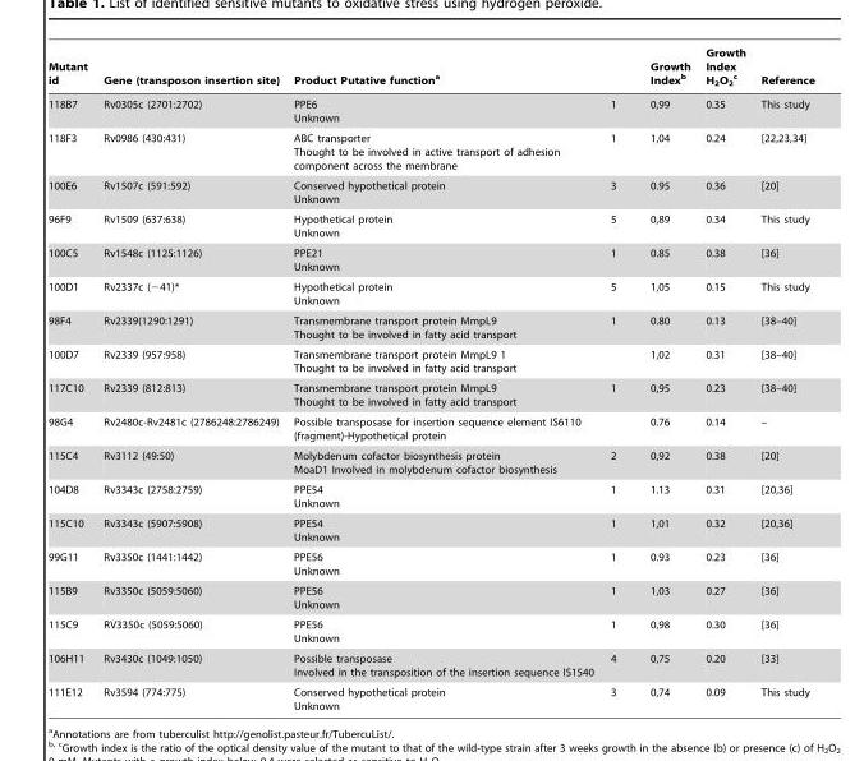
<table><thead><tr><td rowspan="2">Mutant id 118B7</td><td rowspan="2">Gene (transposon insertion site) Rv0305c (2701:2702)</td><td colspan="2">Product Putative function<sup>a</sup></td><td rowspan="2">Growth Index<sup>b</sup> 0,99</td><td rowspan="2">Growth Index H<sub>2</sub>O<sub>2</sub> <sup>c</sup> 0.35</td><td rowspan="2">Reference This study</td></tr><tr><td>PPE6 Unknown</td><td>1</td></tr></thead><tbody><tr><td>118F3</td><td>Rv0986 (430:431)</td><td>ABC transporter Thought to be involved in active transport of adhesion component across the membrane</td><td>1</td><td>1,04</td><td>0.24</td><td>[22,23,34]</td></tr><tr><td>100E6</td><td>Rv1507c (591:592)</td><td>Conserved hypothetical protein Unknown</td><td>3</td><td>0.95</td><td>0.36</td><td>[20]</td></tr><tr><td>96F9</td><td>Rv1509 (637:638)</td><td>Hypothetical protein Unknown</td><td>5</td><td>0,89</td><td>0.34</td><td>This study</td></tr><tr><td>100C5</td><td>Rv1548c (1125:1126)</td><td>PPE21 Unknown</td><td>1</td><td>0.85</td><td>0.38</td><td>[36]</td></tr><tr><td>100D1</td><td>Rv2337c (−41)*</td><td>Hypothetical protein Unknown</td><td>5</td><td>1,05</td><td>0.15</td><td>This study</td></tr><tr><td>98F4</td><td>Rv2339(1290:1291)</td><td>Transmembrane transport protein MmpL9 Thought to be involved in fatty acid transport</td><td>1</td><td>0.80</td><td>0.13</td><td>[38–40]</td></tr><tr><td>100D7</td><td>Rv2339 (957:958)</td><td>Transmembrane transport protein MmpL9 1 Thought to be involved in fatty acid transport</td><td></td><td>1,02</td><td>0.31</td><td>[38–40]</td></tr><tr><td>117C10</td><td>Rv2339 (812:813)</td><td>Transmembrane transport protein MmpL9 Thought to be involved in fatty acid transport</td><td>1</td><td>0,95</td><td>0.23</td><td>[38–40]</td></tr><tr><td>98G4</td><td>Rv2480c-Rv2481c (2786248:2786249)</td><td>Possible transposase for insertion sequence element IS6110 (fragment)-Hypothetical protein</td><td></td><td>0.76</td><td>0.14</td><td>–</td></tr><tr><td>115C4</td><td>Rv3112 (49:50)</td><td>Molybdenum cofactor biosynthesis protein MoaD1 Involved in molybdenum cofactor biosynthesis</td><td>2</td><td>0,92</td><td>0.38</td><td>[20]</td></tr><tr><td>104D8</td><td>Rv3343c (2758:2759)</td><td>PPE54 Unknown</td><td>1</td><td>1.13</td><td>0.31</td><td>[20,36]</td></tr><tr><td>115C10</td><td>Rv3343c (5907:5908)</td><td>PPE54 Unknown</td><td>1</td><td>1,01</td><td>0.32</td><td>[20,36]</td></tr><tr><td>99G11</td><td>Rv3350c (1441:1442)</td><td>PPE56 Unknown</td><td>1</td><td>0.93</td><td>0.23</td><td>[36]</td></tr><tr><td>115B9</td><td>Rv3350c (5059:5060)</td><td>PPE56 Unknown</td><td>1</td><td>1,03</td><td>0.27</td><td>[36]</td></tr><tr><td>115C9</td><td>RV3350c (5059:5060)</td><td>PPE56 Unknown</td><td>1</td><td>0,98</td><td>0.30</td><td>[36]</td></tr><tr><td>106H11</td><td>Rv3430c (1049:1050)</td><td>Possible transposase Involved in the transposition of the insertion sequence IS1540</td><td>4</td><td>0,75</td><td>0.20</td><td>[33]</td></tr><tr><td>111E12</td><td>Rv3594 (774:775)</td><td>Conserved hypothetical protein Unknown</td><td>3</td><td>0,74</td><td>0.09</td><td>This study</td></tr></tbody></table>